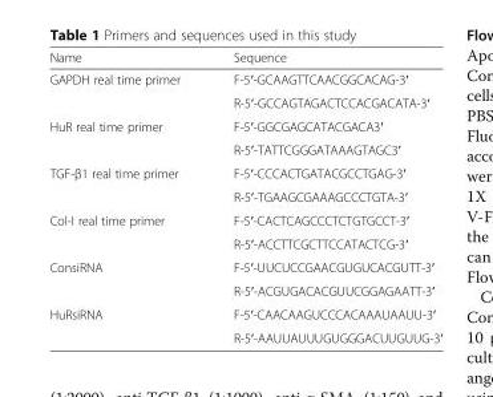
<table><thead><tr><td>Name</td><td>Sequence</td></tr></thead><tbody><tr><td rowspan="2">GAPDH real time primer</td><td>F-5′-GCAAGTTCAACGGCACAG-3′</td></tr><tr><td>R-5′-GCCAGTAGACTCCACGACATA-3′</td></tr><tr><td rowspan="2">HuR real time primer</td><td>F-5′-GGCGAGCATACGACA3′</td></tr><tr><td>R-5′-TATTCGGGATAAAGTAGC3′</td></tr><tr><td rowspan="2">TGF-β1 real time primer</td><td>F-5′-CCCACTGATACGCCTGAG-3′</td></tr><tr><td>R-5′-TGAAGCGAAAGCCCTGTA-3′</td></tr><tr><td rowspan="2">Col-I real time primer</td><td>F-5′-CACTCAGCCCTCTGTGCCT-3′</td></tr><tr><td>R-5′-ACCTTCGCTTCCATACTCG-3′</td></tr><tr><td rowspan="2">ConsiRNA</td><td>F-5′-UUCUCCGAACGUGUCACGUTT-3′</td></tr><tr><td>R-5′-ACGUGACACGUUCGGAGAATT-3′</td></tr><tr><td rowspan="2">HuRsiRNA</td><td>F-5′-CAACAAGUCCCACAAAUAAUU-3′</td></tr><tr><td>R-5′-AAUUAUUUGUGGGACUUGUUG-3′</td></tr></tbody></table>